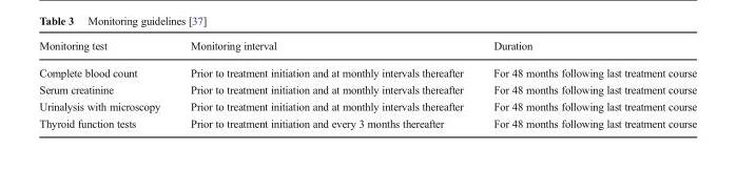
<table><thead><tr><td>Monitoring test</td><td>Monitoring interval</td><td>Duration</td></tr></thead><tbody><tr><td>Complete blood count</td><td>Prior to treatment initiation and at monthly intervals thereafter</td><td>For 48 months following last treatment course</td></tr><tr><td>Serum creatinine</td><td>Prior to treatment initiation and at monthly intervals thereafter</td><td>For 48 months following last treatment course</td></tr><tr><td>Urinalysis with microscopy</td><td>Prior to treatment initiation and at monthly intervals thereafter</td><td>For 48 months following last treatment course</td></tr><tr><td>Thyroid function tests</td><td>Prior to treatment initiation and every 3 months thereafter</td><td>For 48 months following last treatment course</td></tr></tbody></table>